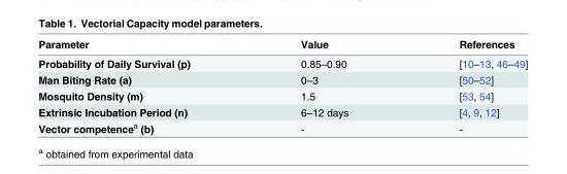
<table><thead><tr><td>Parameter</td><td>Value</td><td>References</td></tr></thead><tbody><tr><td>Probability of Daily Survival (p)</td><td>0.85–0.90</td><td>[10–13, 46–49]</td></tr><tr><td>Man Biting Rate (a)</td><td>0–3</td><td>[50–52]</td></tr><tr><td>Mosquito Density (m)</td><td>1.5</td><td>[53, 54]</td></tr><tr><td>Extrinsic Incubation Period (n)</td><td>6–12 days</td><td>[4, 9, 12]</td></tr><tr><td>Vector competence<sup>a</sup> (b)</td><td>-</td><td>-</td></tr></tbody></table>